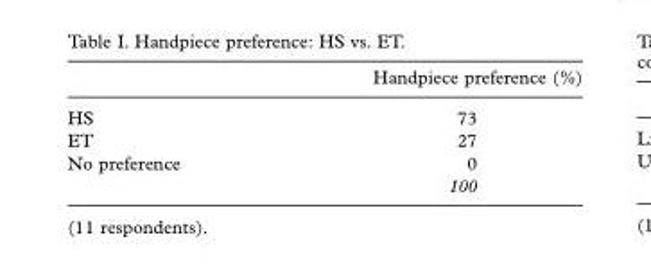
<table><thead><tr><td></td><td>Handpiece preference (%)</td></tr></thead><tbody><tr><td>HS</td><td>73</td></tr><tr><td>ET</td><td>27</td></tr><tr><td rowspan="2">No preference</td><td>0</td></tr><tr><td>100</td></tr></tbody></table>